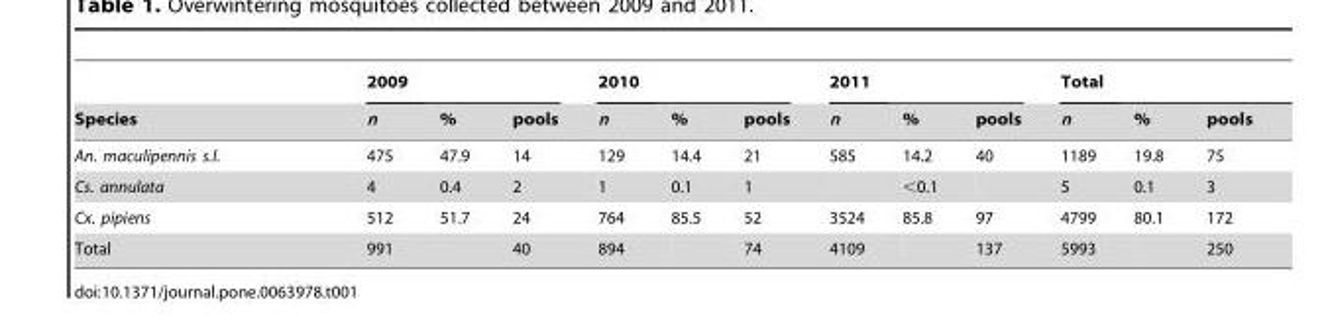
<table><thead><tr><td rowspan="2">Species</td><td rowspan="2">2009 n</td><td rowspan="2">%</td><td rowspan="2">pools</td><td rowspan="2">2010 n</td><td rowspan="2">%</td><td rowspan="2">pools</td><td rowspan="2">2011 n</td><td rowspan="2">%</td><td rowspan="2">pools</td><td rowspan="2">Total n</td><td rowspan="2">%</td><td rowspan="2">pools</td></tr><tr></tr></thead><tbody><tr><td>An. maculipennis s.l.</td><td>475</td><td>47.9</td><td>14</td><td>129</td><td>14.4</td><td>21</td><td>585</td><td>14.2</td><td>40</td><td>1189</td><td>19.8</td><td>75</td></tr><tr><td>Cs. annulata</td><td>4</td><td>0.4</td><td>2</td><td>1</td><td>0.1</td><td>1</td><td></td><td>&lt;0.1</td><td></td><td>5</td><td>0.1</td><td>3</td></tr><tr><td>Cx. pipiens</td><td>512</td><td>51.7</td><td>24</td><td>764</td><td>85.5</td><td>52</td><td>3524</td><td>85.8</td><td>97</td><td>4799</td><td>80.1</td><td>172</td></tr><tr><td>Total</td><td>991</td><td></td><td>40</td><td>894</td><td></td><td>74</td><td>4109</td><td></td><td>137</td><td>5993</td><td></td><td>250</td></tr></tbody></table>